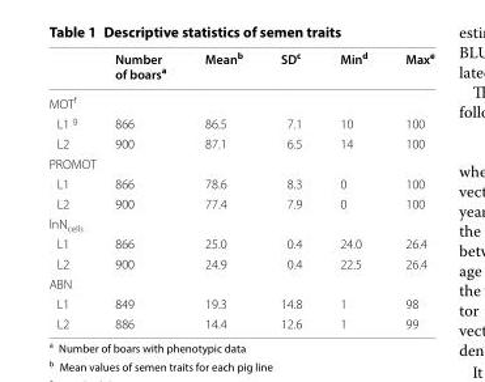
<table><thead><tr><td></td><td>Number of boars<sup>a</sup></td><td>Mean<sup>b</sup></td><td>SD<sup>c</sup></td><td>Min<sup>d</sup></td><td>Max<sup>e</sup></td></tr></thead><tbody><tr><td colspan="6">MOT<sup>f</sup></td></tr><tr><td>L1 <sup>g</sup></td><td>866</td><td>86.5</td><td>7.1</td><td>10</td><td>100</td></tr><tr><td>L2</td><td>900</td><td>87.1</td><td>6.5</td><td>14</td><td>100</td></tr><tr><td colspan="6">PROMOT</td></tr><tr><td>L1</td><td>866</td><td>78.6</td><td>8.3</td><td>0</td><td>100</td></tr><tr><td>L2</td><td>900</td><td>77.4</td><td>7.9</td><td>0</td><td>100</td></tr><tr><td colspan="6">lnN<sub>cells</sub></td></tr><tr><td>L1</td><td>866</td><td>25.0</td><td>0.4</td><td>24.0</td><td>26.4</td></tr><tr><td>L2</td><td>900</td><td>24.9</td><td>0.4</td><td>22.5</td><td>26.4</td></tr><tr><td colspan="6">ABN</td></tr><tr><td>L1</td><td>849</td><td>19.3</td><td>14.8</td><td>1</td><td>98</td></tr><tr><td>L2</td><td>886</td><td>14.4</td><td>12.6</td><td>1</td><td>99</td></tr></tbody></table>